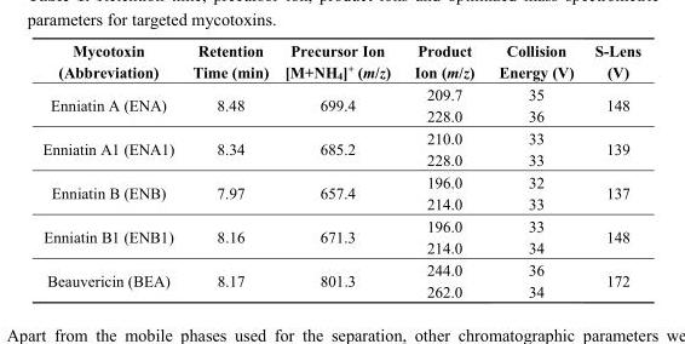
<table><thead><tr><td>Mycotoxin (Abbreviation)</td><td>Retention Time (min)</td><td>Precursor Ion [M+NH<sub>4</sub>]<sup>+</sup> (m/z)</td><td>Product Ion (m/z)</td><td>Collision Energy (V)</td><td>S-Lens (V)</td></tr></thead><tbody><tr><td rowspan="2">Enniatin A (ENA)</td><td rowspan="2">8.48</td><td rowspan="2">699.4</td><td>209.7</td><td>35</td><td rowspan="2">148</td></tr><tr><td>228.0</td><td>36</td></tr><tr><td rowspan="2">Enniatin A1 (ENA1)</td><td rowspan="2">8.34</td><td rowspan="2">685.2</td><td>210.0</td><td>33</td><td rowspan="2">139</td></tr><tr><td>228.0</td><td>33</td></tr><tr><td rowspan="2">Enniatin B (ENB)</td><td rowspan="2">7.97</td><td rowspan="2">657.4</td><td>196.0</td><td>32</td><td rowspan="2">137</td></tr><tr><td>214.0</td><td>33</td></tr><tr><td rowspan="2">Enniatin B1 (ENB1)</td><td rowspan="2">8.16</td><td rowspan="2">671.3</td><td>196.0</td><td>33</td><td rowspan="2">148</td></tr><tr><td>214.0</td><td>34</td></tr><tr><td rowspan="2">Beauvericin (BEA)</td><td rowspan="2">8.17</td><td rowspan="2">801.3</td><td>244.0</td><td>36</td><td rowspan="2">172</td></tr><tr><td>262.0</td><td>34</td></tr></tbody></table>